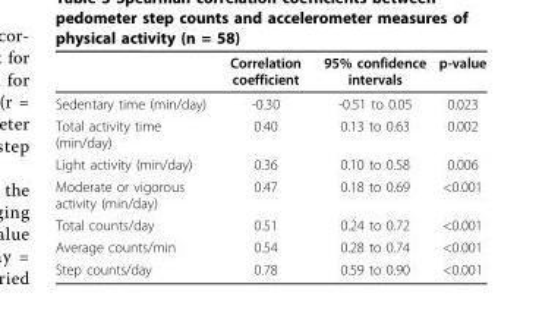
<table><thead><tr><td></td><td>Correlation coefficient</td><td>95% confidence intervals</td><td>p-value</td></tr></thead><tbody><tr><td>Sedentary time (min/day)</td><td>-0.30</td><td>-0.51 to 0.05</td><td>0.023</td></tr><tr><td>Total activity time (min/day)</td><td>0.40</td><td>0.13 to 0.63</td><td>0.002</td></tr><tr><td>Light activity (min/day)</td><td>0.36</td><td>0.10 to 0.58</td><td>0.006</td></tr><tr><td>Moderate or vigorous activity (min/day)</td><td>0.47</td><td>0.18 to 0.69</td><td>&lt;0.001</td></tr><tr><td>Total counts/day</td><td>0.51</td><td>0.24 to 0.72</td><td>&lt;0.001</td></tr><tr><td>Average counts/min</td><td>0.54</td><td>0.28 to 0.74</td><td>&lt;0.001</td></tr><tr><td>Step counts/day</td><td>0.78</td><td>0.59 to 0.90</td><td>&lt;0.001</td></tr></tbody></table>